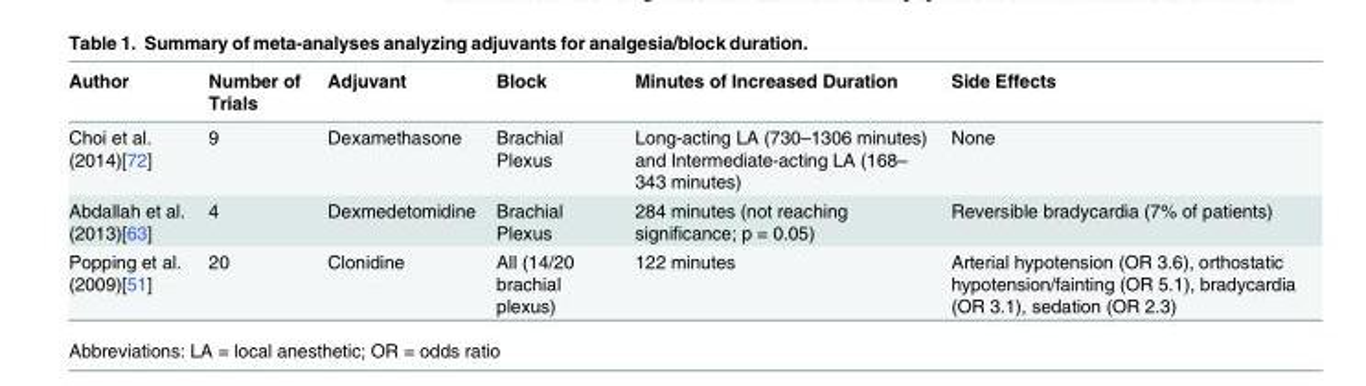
<table><thead><tr><td>Author</td><td>Number of Trials</td><td>Adjuvant</td><td>Block</td><td>Minutes of Increased Duration</td><td>Side Effects</td></tr></thead><tbody><tr><td>Choi et al. (2014)[72]</td><td>9</td><td>Dexamethasone</td><td>Brachial Plexus</td><td>Long-acting LA (730–1306 minutes) and Intermediate-acting LA (168– 343 minutes)</td><td>None</td></tr><tr><td>Abdallah et al. (2013)[63]</td><td>4</td><td>Dexmedetomidine</td><td>Brachial Plexus</td><td>284 minutes (not reaching significance; p = 0.05)</td><td>Reversible bradycardia (7% of patients)</td></tr><tr><td>Popping et al. (2009)[51]</td><td>20</td><td>Clonidine</td><td>All (14/20 brachial plexus)</td><td>122 minutes</td><td>Arterial hypotension (OR 3.6), orthostatic hypotension/fainting (OR 5.1), bradycardia (OR 3.1), sedation (OR 2.3)</td></tr></tbody></table>